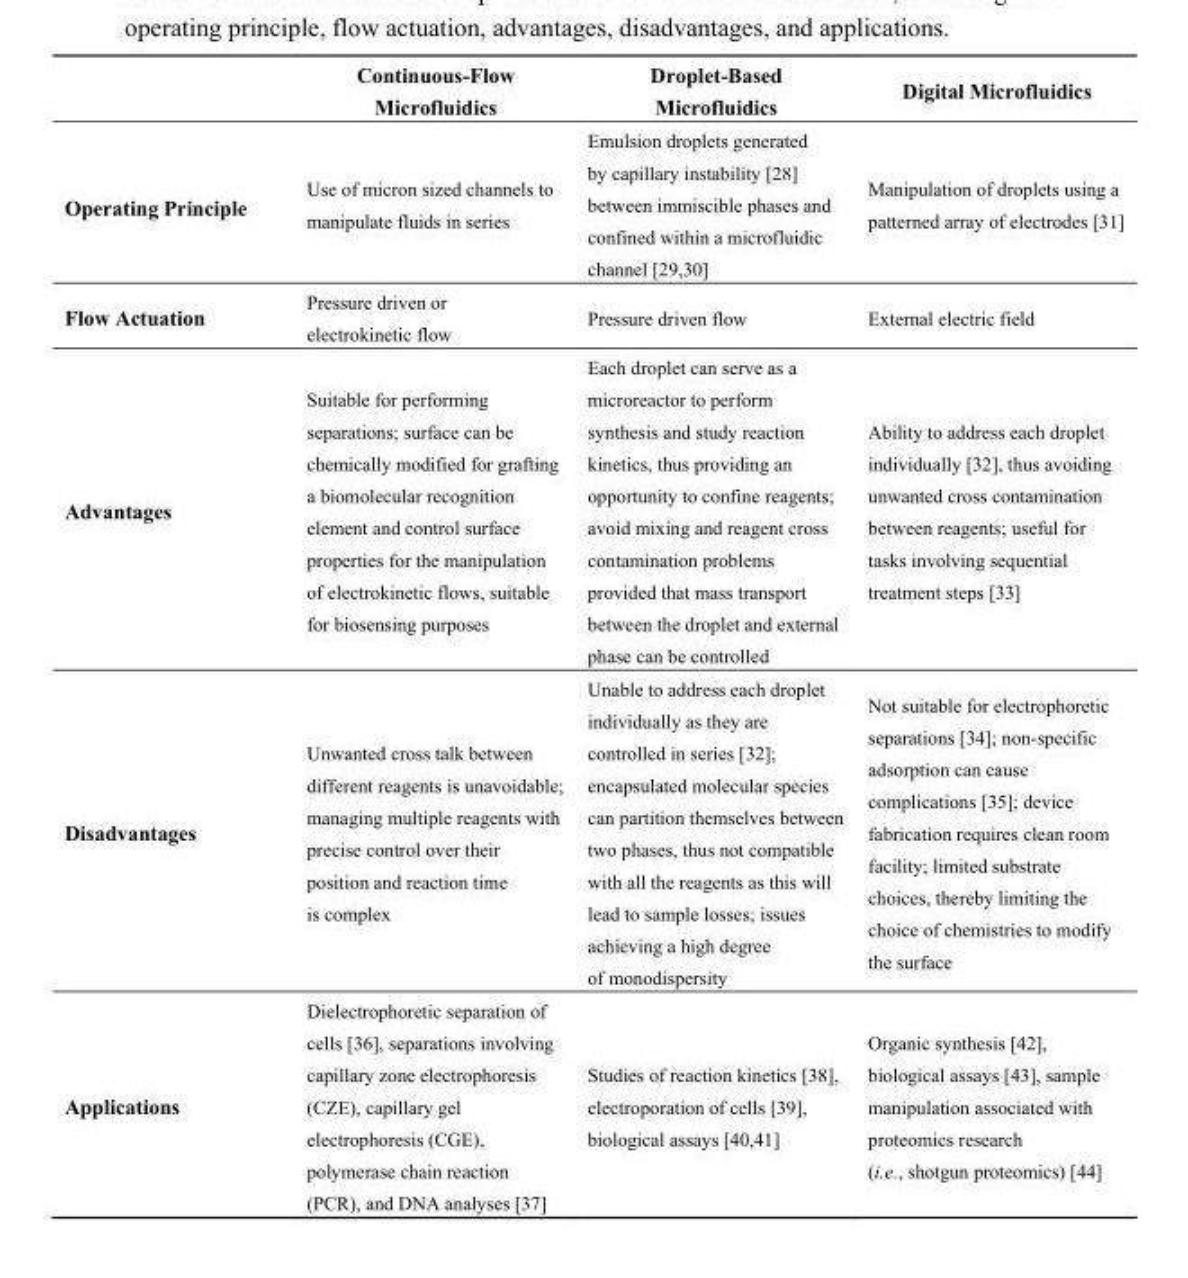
<table><thead><tr><td></td><td>Continuous-Flow Microfluidics</td><td>Droplet-Based Microfluidics</td><td>Digital Microfluidics</td></tr></thead><tbody><tr><td>Operating Principle</td><td>Use of micron sized channels to manipulate fluids in series</td><td>Emulsion droplets generated by capillary instability [28] between immiscible phases and confined within a microfluidic channel [29,30]</td><td>Manipulation of droplets using a patterned array of electrodes [31]</td></tr><tr><td>Flow Actuation</td><td>Pressure driven or electrokinetic flow</td><td>Pressure driven flow</td><td>External electric field</td></tr><tr><td>Advantages</td><td>Suitable for performing separations; surface can be chemically modified for grafting a biomolecular recognition element and control surface properties for the manipulation of electrokinetic flows, suitable for biosensing purposes</td><td>Each droplet can serve as a microreactor to perform synthesis and study reaction kinetics, thus providing an opportunity to confine reagents; avoid mixing and reagent cross contamination problems provided that mass transport between the droplet and external phase can be controlled</td><td>Ability to address each droplet individually [32], thus avoiding unwanted cross contamination between reagents; useful for tasks involving sequential treatment steps [33]</td></tr><tr><td>Disadvantages</td><td>Unwanted cross talk between different reagents is unavoidable; managing multiple reagents with precise control over their position and reaction time is complex</td><td>Unable to address each droplet individually as they are controlled in series [32]; encapsulated molecular species can partition themselves between two phases, thus not compatible with all the reagents as this will lead to sample losses; issues achieving a high degree of monodispersity</td><td>Not suitable for electrophoretic separations [34]; non-specific adsorption can cause complications [35]; device fabrication requires clean room facility; limited substrate choices, thereby limiting the choice of chemistries to modify the surface</td></tr><tr><td>Applications</td><td>Dielectrophoretic separation of cells [36], separations involving capillary zone electrophoresis (CZE), capillary gel electrophoresis (CGE), polymerase chain reaction (PCR), and DNA analyses [37]</td><td>Studies of reaction kinetics [38], electroporation of cells [39], biological assays [40,41]</td><td>Organic synthesis [42], biological assays [43], sample manipulation associated with proteomics research (i.e., shotgun proteomics) [44]</td></tr></tbody></table>